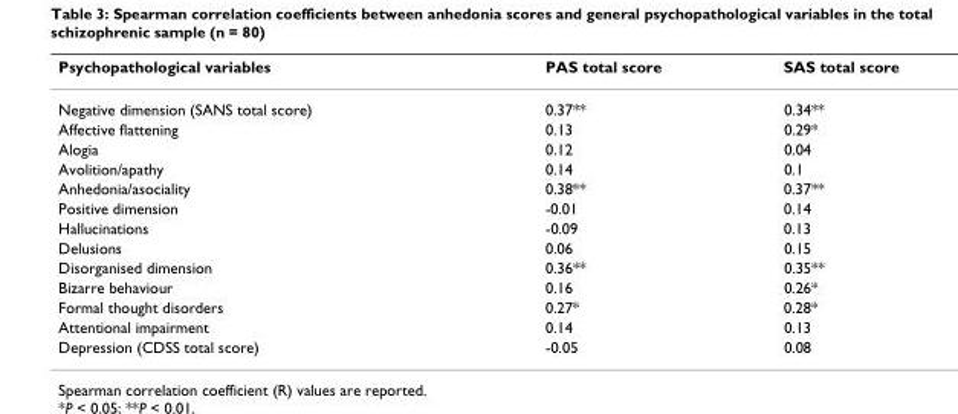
<table><thead><tr><td>Psychopathological variables</td><td>PAS total score</td><td>SAS total score</td></tr></thead><tbody><tr><td>Negative dimension (SANS total score)</td><td>0.37**</td><td>0.34**</td></tr><tr><td>Affective flattening</td><td>0.13</td><td>0.29*</td></tr><tr><td>Alogia</td><td>0.12</td><td>0.04</td></tr><tr><td>Avolition/apathy</td><td>0.14</td><td>0.1</td></tr><tr><td>Anhedonia/asociality</td><td>0.38**</td><td>0.37**</td></tr><tr><td>Positive dimension</td><td>-0.01</td><td>0.14</td></tr><tr><td>Hallucinations</td><td>-0.09</td><td>0.13</td></tr><tr><td>Delusions</td><td>0.06</td><td>0.15</td></tr><tr><td>Disorganised dimension</td><td>0.36**</td><td>0.35**</td></tr><tr><td>Bizarre behaviour</td><td>0.16</td><td>0.26*</td></tr><tr><td>Formal thought disorders</td><td>0.27*</td><td>0.28*</td></tr><tr><td>Attentional impairment</td><td>0.14</td><td>0.13</td></tr><tr><td>Depression (CDSS total score)</td><td>-0.05</td><td>0.08</td></tr></tbody></table>